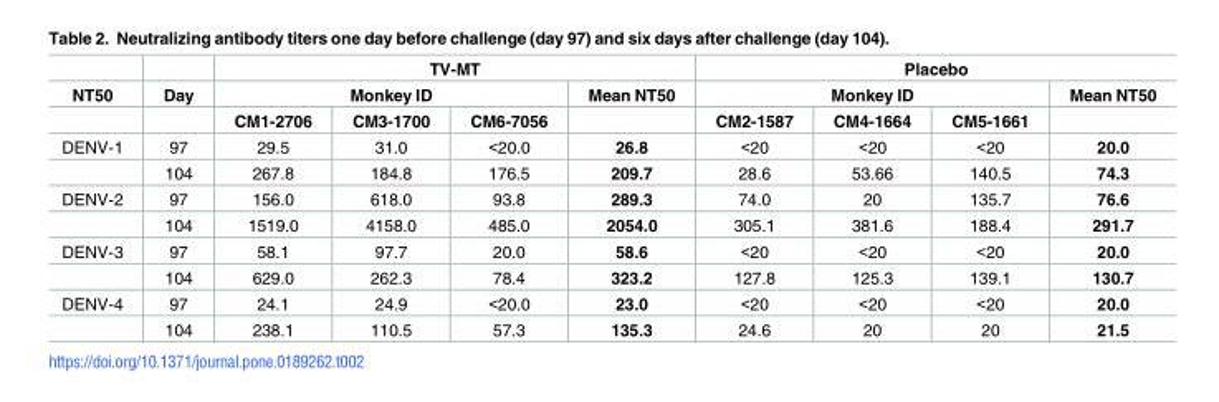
<table><thead><tr><td rowspan="3">NT50</td><td rowspan="3">Day</td><td colspan="4">TV-MT</td><td colspan="4">Placebo</td></tr><tr><td colspan="3">Monkey ID</td><td rowspan="2">Mean NT50</td><td colspan="3">Monkey ID</td><td rowspan="2">Mean NT50</td></tr><tr><td>CM1-2706</td><td>CM3-1700</td><td>CM6-7056</td><td>CM2-1587</td><td>CM4-1664</td><td>CM5-1661</td></tr></thead><tbody><tr><td rowspan="2">DENV-1</td><td>97</td><td>29.5</td><td>31.0</td><td>&lt;20.0</td><td>26.8</td><td>&lt;20</td><td>&lt;20</td><td>&lt;20</td><td>20.0</td></tr><tr><td>104</td><td>267.8</td><td>184.8</td><td>176.5</td><td>209.7</td><td>28.6</td><td>53.66</td><td>140.5</td><td>74.3</td></tr><tr><td rowspan="2">DENV-2</td><td>97</td><td>156.0</td><td>618.0</td><td>93.8</td><td>289.3</td><td>74.0</td><td>20</td><td>135.7</td><td>76.6</td></tr><tr><td>104</td><td>1519.0</td><td>4158.0</td><td>485.0</td><td>2054.0</td><td>305.1</td><td>381.6</td><td>188.4</td><td>291.7</td></tr><tr><td rowspan="2">DENV-3</td><td>97</td><td>58.1</td><td>97.7</td><td>20.0</td><td>58.6</td><td>&lt;20</td><td>&lt;20</td><td>&lt;20</td><td>20.0</td></tr><tr><td>104</td><td>629.0</td><td>262.3</td><td>78.4</td><td>323.2</td><td>127.8</td><td>125.3</td><td>139.1</td><td>130.7</td></tr><tr><td rowspan="2">DENV-4</td><td>97</td><td>24.1</td><td>24.9</td><td>&lt;20.0</td><td>23.0</td><td>&lt;20</td><td>&lt;20</td><td>&lt;20</td><td>20.0</td></tr><tr><td>104</td><td>238.1</td><td>110.5</td><td>57.3</td><td>135.3</td><td>24.6</td><td>20</td><td>20</td><td>21.5</td></tr></tbody></table>